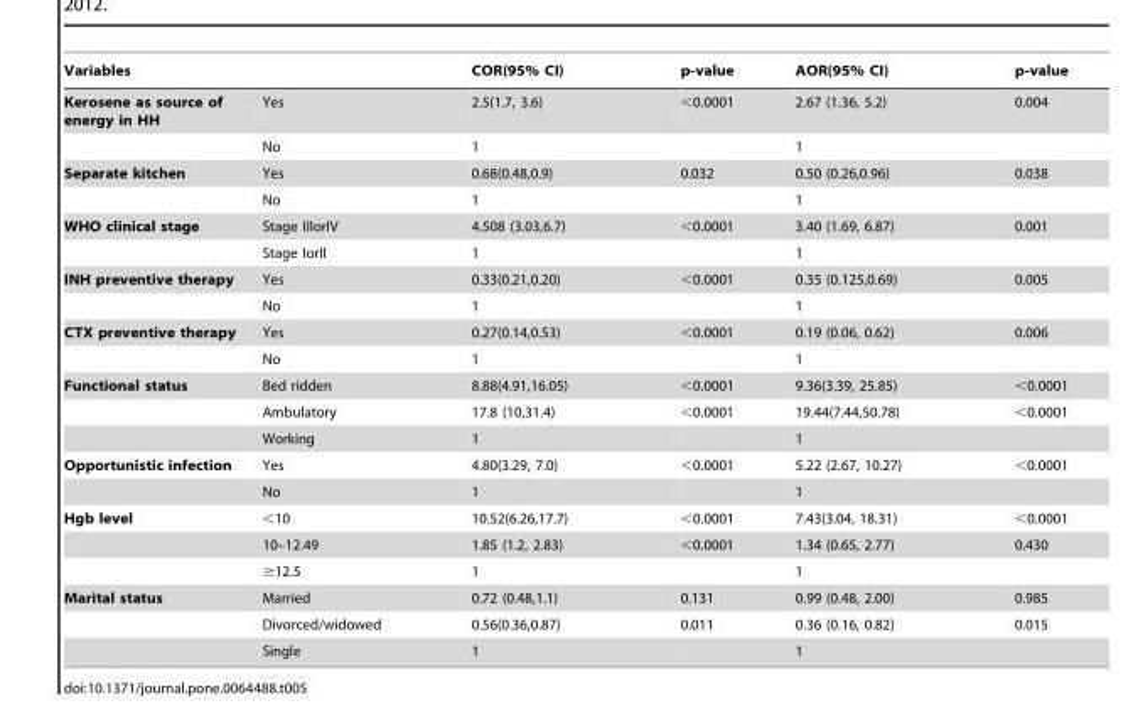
<table><thead><tr><td colspan="2">Variables</td><td rowspan="2">COR(95% CI) 2.5(1.7, 3.6)</td><td rowspan="2">p-value &lt;0.0001</td><td rowspan="2">AOR(95% CI) 2.67 (1.36, 5.2)</td><td rowspan="2">p-value 0.004</td></tr><tr><td>Kerosene as source of energy in HH</td><td>Yes</td></tr></thead><tbody><tr><td></td><td>No</td><td>1</td><td></td><td>1</td><td></td></tr><tr><td rowspan="2">Separate kitchen</td><td>Yes</td><td>0.68(0.48,0.9)</td><td>0.032</td><td>0.50 (0.26,0.96)</td><td>0.038</td></tr><tr><td>No</td><td>1</td><td></td><td>1</td><td></td></tr><tr><td rowspan="2">WHO clinical stage</td><td>Stage IIIorIV</td><td>4.508 (3.03,6.7)</td><td>&lt;0.0001</td><td>3.40 (1.69, 6.87)</td><td>0.001</td></tr><tr><td>Stage IorII</td><td>1</td><td></td><td>1</td><td></td></tr><tr><td rowspan="2">INH preventive therapy</td><td>Yes</td><td>0.33(0.21,0.20)</td><td>&lt;0.0001</td><td>0.35 (0.125,0.69)</td><td>0.005</td></tr><tr><td>No</td><td>1</td><td></td><td>1</td><td></td></tr><tr><td rowspan="2">CTX preventive therapy</td><td>Yes</td><td>0.27(0.14,0.53)</td><td>&lt;0.0001</td><td>0.19 (0.06, 0.62)</td><td>0.006</td></tr><tr><td>No</td><td>1</td><td></td><td>1</td><td></td></tr><tr><td rowspan="3">Functional status</td><td>Bed ridden</td><td>8.88(4.91,16.05)</td><td>&lt;0.0001</td><td>9.36(3.39, 25.85)</td><td>&lt;0.0001</td></tr><tr><td>Ambulatory</td><td>17.8 (10,31.4)</td><td>&lt;0.0001</td><td>19.44(7.44,50.78)</td><td>&lt;0.0001</td></tr><tr><td>Working</td><td>1</td><td></td><td>1</td><td></td></tr><tr><td rowspan="2">Opportunistic infection</td><td>Yes</td><td>4.80(3.29, 7.0)</td><td>&lt;0.0001</td><td>5.22 (2.67, 10.27)</td><td>&lt;0.0001</td></tr><tr><td>No</td><td>1</td><td></td><td>1</td><td></td></tr><tr><td rowspan="3">Hgb level</td><td>&lt;10</td><td>10.52(6.26,17.7)</td><td>&lt;0.0001</td><td>7.43(3.04, 18.31)</td><td>&lt;0.0001</td></tr><tr><td>10–12.49</td><td>1.85 (1.2, 2.83)</td><td>&lt;0.0001</td><td>1.34 (0.65, 2.77)</td><td>0.430</td></tr><tr><td>≥12.5</td><td>1</td><td></td><td>1</td><td></td></tr><tr><td rowspan="3">Marital status</td><td>Married</td><td>0.72 (0.48,1.1)</td><td>0.131</td><td>0.99 (0.48, 2.00)</td><td>0.985</td></tr><tr><td>Divorced/widowed</td><td>0.56(0.36,0.87)</td><td>0.011</td><td>0.36 (0.16, 0.82)</td><td>0.015</td></tr><tr><td>Single</td><td>1</td><td></td><td>1</td><td></td></tr></tbody></table>